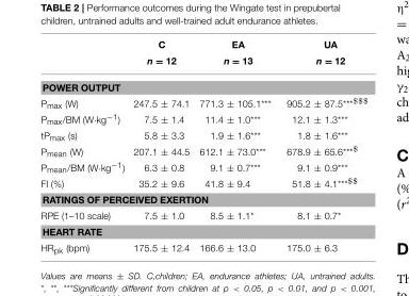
<table><thead><tr><td rowspan="2"></td><td rowspan="2">C n = 12</td><td rowspan="2">EA n = 13</td><td rowspan="2">UA n = 12</td></tr><tr></tr></thead><tbody><tr><td colspan="4">POWER OUTPUT</td></tr><tr><td>P<sub>max</sub> (W)</td><td>247.5 ± 74.1</td><td>771.3 ± 105.1***</td><td>905.2 ± 87.5<sup>***$$$</sup></td></tr><tr><td>P<sub>max</sub>/BM (W·kg<sup>−1</sup>)</td><td>7.5 ± 1.4</td><td>11.4 ± 1.0***</td><td>12.1 ± 1.3***</td></tr><tr><td>tP<sub>max</sub> (s)</td><td>5.8 ± 3.3</td><td>1.9 ± 1.6***</td><td>1.8 ± 1.6***</td></tr><tr><td>P<sub>mean</sub> (W)</td><td>207.1 ± 44.5</td><td>612.1 ± 73.0***</td><td>678.9 ± 65.6<sup>***$</sup></td></tr><tr><td>P<sub>mean</sub>/BM (W·kg<sup>−1</sup>)</td><td>6.3 ± 0.8</td><td>9.1 ± 0.7***</td><td>9.1 ± 0.9***</td></tr><tr><td>FI (%)</td><td>35.2 ± 9.6</td><td>41.8 ± 9.4</td><td>51.8 ± 4.1<sup>***$$</sup></td></tr><tr><td colspan="4">RATINGS OF PERCEIVED EXERTION</td></tr><tr><td>RPE (1–10 scale)</td><td>7.5 ± 1.0</td><td>8.5 ± 1.1*</td><td>8.1 ± 0.7*</td></tr><tr><td colspan="4">HEART RATE</td></tr><tr><td>HR<sub>pk</sub> (bpm)</td><td>175.5 ± 12.4</td><td>166.6 ± 13.0</td><td>175.0 ± 6.3</td></tr></tbody></table>